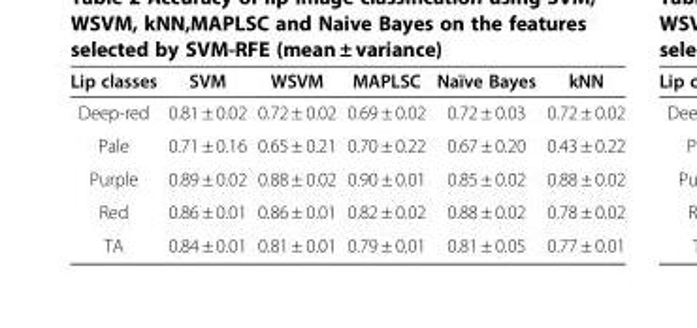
<table><thead><tr><td>Lip classes</td><td>SVM</td><td>WSVM</td><td>MAPLSC</td><td>Naïve Bayes</td><td>kNN</td></tr></thead><tbody><tr><td>Deep-red</td><td>0.81 ± 0.02</td><td>0.72 ± 0.02</td><td>0.69 ± 0.02</td><td>0.72 ± 0.03</td><td>0.72 ± 0.02</td></tr><tr><td>Pale</td><td>0.71 ± 0.16</td><td>0.65 ± 0.21</td><td>0.70 ± 0.22</td><td>0.67 ± 0.20</td><td>0.43 ± 0.22</td></tr><tr><td>Purple</td><td>0.89 ± 0.02</td><td>0.88 ± 0.02</td><td>0.90 ± 0.01</td><td>0.85 ± 0.02</td><td>0.88 ± 0.02</td></tr><tr><td>Red</td><td>0.86 ± 0.01</td><td>0.86 ± 0.01</td><td>0.82 ± 0.02</td><td>0.88 ± 0.02</td><td>0.78 ± 0.02</td></tr><tr><td>TA</td><td>0.84 ± 0.01</td><td>0.81 ± 0.01</td><td>0.79 ± 0.01</td><td>0.81 ± 0.05</td><td>0.77 ± 0.01</td></tr></tbody></table>